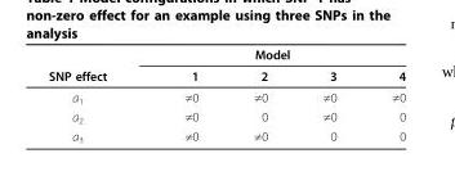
<table><thead><tr><td rowspan="2">SNP effect</td><td colspan="4">Model</td></tr><tr><td>1</td><td>2</td><td>3</td><td>4</td></tr></thead><tbody><tr><td>a<sub>1</sub></td><td>≠0</td><td>≠0</td><td>≠0</td><td>≠0</td></tr><tr><td>a<sub>2</sub></td><td>≠0</td><td>0</td><td>≠0</td><td>0</td></tr><tr><td>a<sub>3</sub></td><td>≠0</td><td>≠0</td><td>0</td><td>0</td></tr></tbody></table>